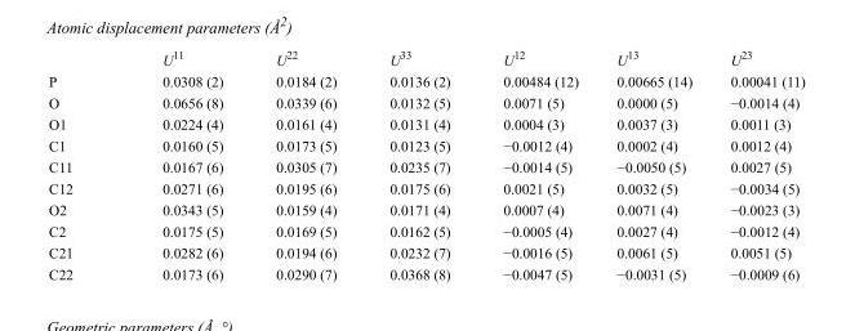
<table><thead><tr><td></td><td>U<sup>11</sup></td><td>U<sup>22</sup></td><td>U<sup>33</sup></td><td>U<sup>12</sup></td><td>U<sup>13</sup></td><td>U<sup>23</sup></td></tr></thead><tbody><tr><td>P</td><td>0.0308 (2)</td><td>0.0184 (2)</td><td>0.0136 (2)</td><td>0.00484 (12)</td><td>0.00665 (14)</td><td>0.00041 (11)</td></tr><tr><td>O</td><td>0.0656 (8)</td><td>0.0339 (6)</td><td>0.0132 (5)</td><td>0.0071 (5)</td><td>0.0000 (5)</td><td>−0.0014 (4)</td></tr><tr><td>O1</td><td>0.0224 (4)</td><td>0.0161 (4)</td><td>0.0131 (4)</td><td>0.0004 (3)</td><td>0.0037 (3)</td><td>0.0011 (3)</td></tr><tr><td>C1</td><td>0.0160 (5)</td><td>0.0173 (5)</td><td>0.0123 (5)</td><td>−0.0012 (4)</td><td>0.0002 (4)</td><td>0.0012 (4)</td></tr><tr><td>C11</td><td>0.0167 (6)</td><td>0.0305 (7)</td><td>0.0235 (7)</td><td>−0.0014 (5)</td><td>−0.0050 (5)</td><td>0.0027 (5)</td></tr><tr><td>C12</td><td>0.0271 (6)</td><td>0.0195 (6)</td><td>0.0175 (6)</td><td>0.0021 (5)</td><td>0.0032 (5)</td><td>−0.0034 (5)</td></tr><tr><td>O2</td><td>0.0343 (5)</td><td>0.0159 (4)</td><td>0.0171 (4)</td><td>0.0007 (4)</td><td>0.0071 (4)</td><td>−0.0023 (3)</td></tr><tr><td>C2</td><td>0.0175 (5)</td><td>0.0169 (5)</td><td>0.0162 (5)</td><td>−0.0005 (4)</td><td>0.0027 (4)</td><td>−0.0012 (4)</td></tr><tr><td>C21</td><td>0.0282 (6)</td><td>0.0194 (6)</td><td>0.0232 (7)</td><td>−0.0016 (5)</td><td>0.0061 (5)</td><td>0.0051 (5)</td></tr><tr><td>C22</td><td>0.0173 (6)</td><td>0.0290 (7)</td><td>0.0368 (8)</td><td>−0.0047 (5)</td><td>−0.0031 (5)</td><td>−0.0009 (6)</td></tr></tbody></table>